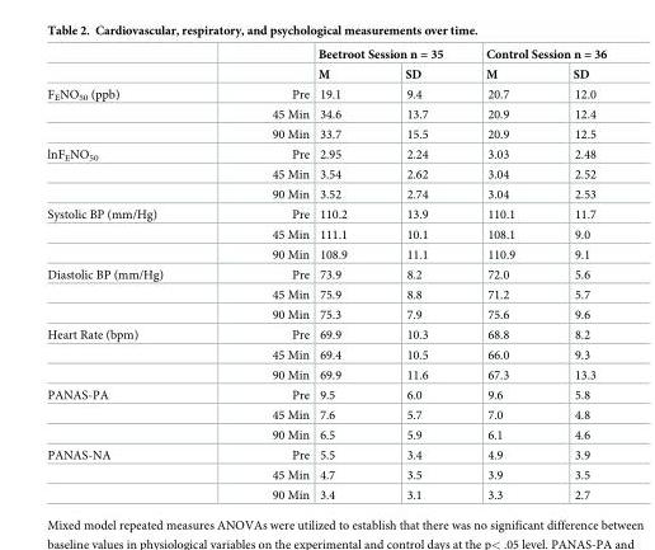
<table><thead><tr><td rowspan="2"></td><td rowspan="2"></td><td colspan="2">Beetroot Session n = 35</td><td colspan="2">Control Session n = 36</td></tr><tr><td>M</td><td>SD</td><td>M</td><td>SD</td></tr></thead><tbody><tr><td rowspan="3">F<sub>E</sub>NO<sub>50</sub> (ppb)</td><td>Pre</td><td>19.1</td><td>9.4</td><td>20.7</td><td>12.0</td></tr><tr><td>45 Min</td><td>34.6</td><td>13.7</td><td>20.9</td><td>12.4</td></tr><tr><td>90 Min</td><td>33.7</td><td>15.5</td><td>20.9</td><td>12.5</td></tr><tr><td rowspan="3">lnF<sub>E</sub>NO<sub>50</sub></td><td>Pre</td><td>2.95</td><td>2.24</td><td>3.03</td><td>2.48</td></tr><tr><td>45 Min</td><td>3.54</td><td>2.62</td><td>3.04</td><td>2.52</td></tr><tr><td>90 Min</td><td>3.52</td><td>2.74</td><td>3.04</td><td>2.53</td></tr><tr><td rowspan="3">Systolic BP (mm/Hg)</td><td>Pre</td><td>110.2</td><td>13.9</td><td>110.1</td><td>11.7</td></tr><tr><td>45 Min</td><td>111.1</td><td>10.1</td><td>108.1</td><td>9.0</td></tr><tr><td>90 Min</td><td>108.9</td><td>11.1</td><td>110.9</td><td>9.1</td></tr><tr><td rowspan="3">Diastolic BP (mm/Hg)</td><td>Pre</td><td>73.9</td><td>8.2</td><td>72.0</td><td>5.6</td></tr><tr><td>45 Min</td><td>75.9</td><td>8.8</td><td>71.2</td><td>5.7</td></tr><tr><td>90 Min</td><td>75.3</td><td>7.9</td><td>75.6</td><td>9.6</td></tr><tr><td rowspan="3">Heart Rate (bpm)</td><td>Pre</td><td>69.9</td><td>10.3</td><td>68.8</td><td>8.2</td></tr><tr><td>45 Min</td><td>69.4</td><td>10.5</td><td>66.0</td><td>9.3</td></tr><tr><td>90 Min</td><td>69.9</td><td>11.6</td><td>67.3</td><td>13.3</td></tr><tr><td rowspan="3">PANAS-PA</td><td>Pre</td><td>9.5</td><td>6.0</td><td>9.6</td><td>5.8</td></tr><tr><td>45 Min</td><td>7.6</td><td>5.7</td><td>7.0</td><td>4.8</td></tr><tr><td>90 Min</td><td>6.5</td><td>5.9</td><td>6.1</td><td>4.6</td></tr><tr><td rowspan="3">PANAS-NA</td><td>Pre</td><td>5.5</td><td>3.4</td><td>4.9</td><td>3.9</td></tr><tr><td>45 Min</td><td>4.7</td><td>3.5</td><td>3.9</td><td>3.5</td></tr><tr><td>90 Min</td><td>3.4</td><td>3.1</td><td>3.3</td><td>2.7</td></tr></tbody></table>